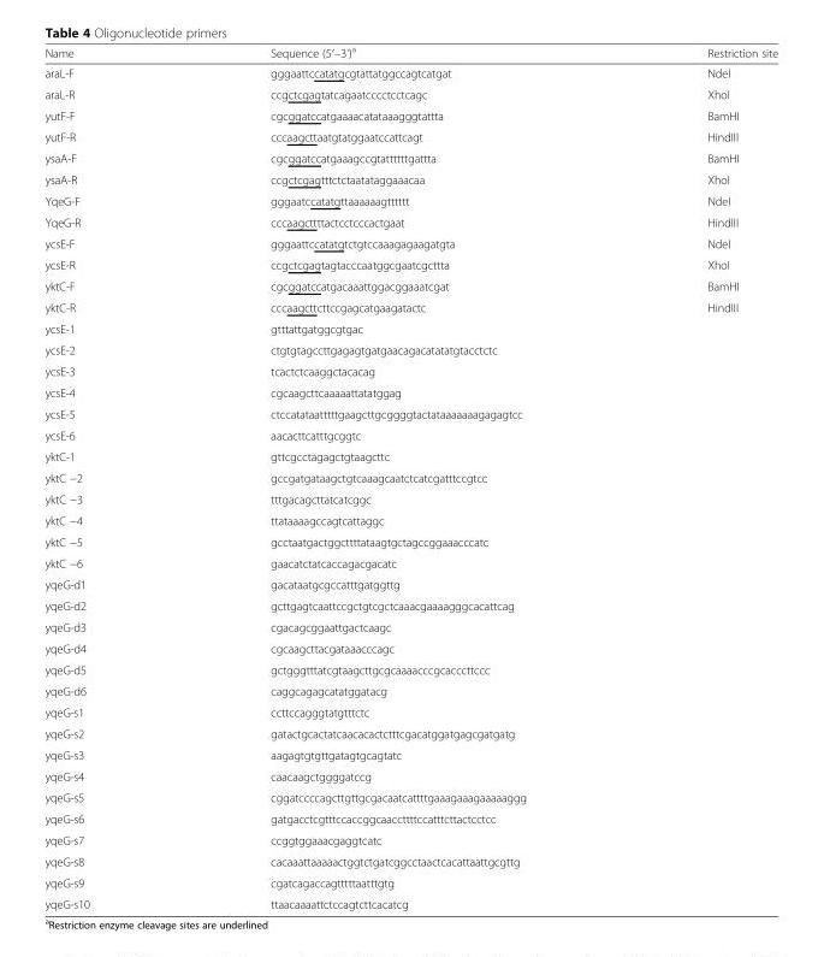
<table><thead><tr><td>Name</td><td>Sequence (5′–3&#x27;)<sup>a</sup></td><td>Restriction site</td></tr></thead><tbody><tr><td>araL-F</td><td>gggaattccatatgcgtattatggccagtcatgat</td><td>NdeI</td></tr><tr><td>araL-R</td><td>ccgctcgagtatcagaatcccctcctcagc</td><td>XhoI</td></tr><tr><td>yutF-F</td><td>cgcggatccatgaaaacatataaagggtattta</td><td>BamHI</td></tr><tr><td>yutF-R</td><td>cccaagcttaatgtatggaatccattcagt</td><td>HindIII</td></tr><tr><td>ysaA-F</td><td>cgcggatccatgaaagccgtattttttgattta</td><td>BamHI</td></tr><tr><td>ysaA-R</td><td>ccgctcgagtttctctaatataggaaacaa</td><td>XhoI</td></tr><tr><td>YqeG-F</td><td>gggaatccatatgttaaaaaagtttttt</td><td>NdeI</td></tr><tr><td>YqeG-R</td><td>cccaagcttttactcctcccactgaat</td><td>HindIII</td></tr><tr><td>ycsE-F</td><td>gggaattccatatgtctgtccaaagagaagatgta</td><td>NdeI</td></tr><tr><td>ycsE-R</td><td>ccgctcgagtagtacccaatggcgaatcgcttta</td><td>XhoI</td></tr><tr><td>yktC-F</td><td>cgcggatccatgacaaattggacggaaatcgat</td><td>BamHI</td></tr><tr><td>yktC-R</td><td>cccaagcttcttccgagcatgaagatactc</td><td>HindIII</td></tr><tr><td>ycsE-1</td><td>gtttattgatggcgtgac</td><td></td></tr><tr><td>ycsE-2</td><td>ctgtgtagccttgagagtgatgaacagacatatatgtacctctc</td><td></td></tr><tr><td>ycsE-3</td><td>tcactctcaaggctacacag</td><td></td></tr><tr><td>ycsE-4</td><td>cgcaagcttcaaaaattatatggag</td><td></td></tr><tr><td>ycsE-5</td><td>ctccatataatttttgaagcttgcggggtactataaaaaaagagagtcc</td><td></td></tr><tr><td>ycsE-6</td><td>aacacttcatttgcggtc</td><td></td></tr><tr><td>yktC-1</td><td>gttcgcctagagctgtaagcttc</td><td></td></tr><tr><td>yktC −2</td><td>gccgatgataagctgtcaaagcaatctcatcgatttccgtcc</td><td></td></tr><tr><td>yktC −3</td><td>tttgacagcttatcatcggc</td><td></td></tr><tr><td>yktC −4</td><td>ttataaaagccagtcattaggc</td><td></td></tr><tr><td>yktC −5</td><td>gcctaatgactggcttttataagtgctagccggaaacccatc</td><td></td></tr><tr><td>yktC −6</td><td>gaacatctatcaccagacgacatc</td><td></td></tr><tr><td>yqeG-d1</td><td>gacataatgcgccatttgatggttg</td><td></td></tr><tr><td>yqeG-d2</td><td>gcttgagtcaattccgctgtcgctcaaacgaaaagggcacattcag</td><td></td></tr><tr><td>yqeG-d3</td><td>cgacagcggaattgactcaagc</td><td></td></tr><tr><td>yqeG-d4</td><td>cgcaagcttacgataaacccagc</td><td></td></tr><tr><td>yqeG-d5</td><td>gctgggtttatcgtaagcttgcgcaaaacccgcacccttccc</td><td></td></tr><tr><td>yqeG-d6</td><td>caggcagagcatatggatacg</td><td></td></tr><tr><td>yqeG-s1</td><td>ccttccagggtatgtttctc</td><td></td></tr><tr><td>yqeG-s2</td><td>gatactgcactatcaacacactctttcgacatggatgagcgatgatg</td><td></td></tr><tr><td>yqeG-s3</td><td>aagagtgtgttgatagtgcagtatc</td><td></td></tr><tr><td>yqeG-s4</td><td>caacaagctggggatccg</td><td></td></tr><tr><td>yqeG-s5</td><td>cggatccccagcttgttgcgacaatcattttgaaagaaagaaaaaggg</td><td></td></tr><tr><td>yqeG-s6</td><td>gatgacctcgtttccaccggcaaccttttccatttcttactcctcc</td><td></td></tr><tr><td>yqeG-s7</td><td>ccggtggaaacgaggtcatc</td><td></td></tr><tr><td>yqeG-s8</td><td>cacaaattaaaaactggtctgatcggcctaactcacattaattgcgttg</td><td></td></tr><tr><td>yqeG-s9</td><td>cgatcagaccagtttttaatttgtg</td><td></td></tr><tr><td>yqeG-s10</td><td>ttaacaaaattctccagtcttcacatcg</td><td></td></tr></tbody></table>